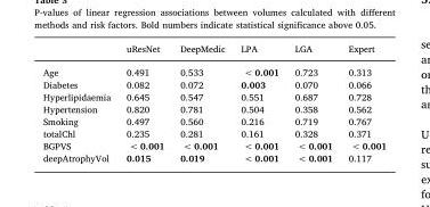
<table><thead><tr><td></td><td>uResNet</td><td>DeepMedic</td><td>LPA</td><td>LGA</td><td>Expert</td></tr></thead><tbody><tr><td>Age</td><td>0.491</td><td>0.533</td><td>&lt; 0.001</td><td>0.723</td><td>0.313</td></tr><tr><td>Diabetes</td><td>0.082</td><td>0.072</td><td>0.003</td><td>0.070</td><td>0.066</td></tr><tr><td>Hyperlipidaemia</td><td>0.645</td><td>0.547</td><td>0.551</td><td>0.687</td><td>0.728</td></tr><tr><td>Hypertension</td><td>0.820</td><td>0.781</td><td>0.504</td><td>0.358</td><td>0.562</td></tr><tr><td>Smoking</td><td>0.497</td><td>0.560</td><td>0.216</td><td>0.719</td><td>0.767</td></tr><tr><td>totalChl</td><td>0.235</td><td>0.281</td><td>0.161</td><td>0.328</td><td>0.371</td></tr><tr><td>BGPVS</td><td>&lt; 0.001</td><td>&lt; 0.001</td><td>&lt; 0.001</td><td>&lt; 0.001</td><td>&lt; 0.001</td></tr><tr><td>deepAtrophyVol</td><td>0.015</td><td>0.019</td><td>&lt; 0.001</td><td>&lt; 0.001</td><td>0.117</td></tr></tbody></table>